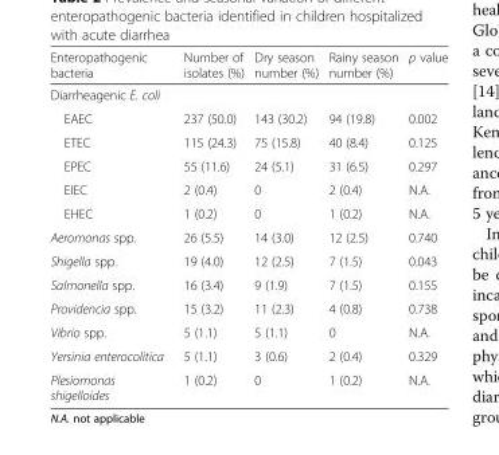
<table><thead><tr><td>Enteropathogenic bacteria</td><td>Number of isolates (%)</td><td>Dry season number (%)</td><td>Rainy season number (%)</td><td>p value</td></tr></thead><tbody><tr><td colspan="5">Diarrheagenic E. coli</td></tr><tr><td>EAEC</td><td>237 (50.0)</td><td>143 (30.2)</td><td>94 (19.8)</td><td>0.002</td></tr><tr><td>ETEC</td><td>115 (24.3)</td><td>75 (15.8)</td><td>40 (8.4)</td><td>0.125</td></tr><tr><td>EPEC</td><td>55 (11.6)</td><td>24 (5.1)</td><td>31 (6.5)</td><td>0.297</td></tr><tr><td>EIEC</td><td>2 (0.4)</td><td>0</td><td>2 (0.4)</td><td>N.A.</td></tr><tr><td>EHEC</td><td>1 (0.2)</td><td>0</td><td>1 (0.2)</td><td>N.A.</td></tr><tr><td>Aeromonas spp.</td><td>26 (5.5)</td><td>14 (3.0)</td><td>12 (2.5)</td><td>0.740</td></tr><tr><td>Shigella spp.</td><td>19 (4.0)</td><td>12 (2.5)</td><td>7 (1.5)</td><td>0.043</td></tr><tr><td>Salmonella spp.</td><td>16 (3.4)</td><td>9 (1.9)</td><td>7 (1.5)</td><td>0.155</td></tr><tr><td>Providencia spp.</td><td>15 (3.2)</td><td>11 (2.3)</td><td>4 (0.8)</td><td>0.738</td></tr><tr><td>Vibrio spp.</td><td>5 (1.1)</td><td>5 (1.1)</td><td>0</td><td>N.A.</td></tr><tr><td>Yersinia enterocolitica</td><td>5 (1.1)</td><td>3 (0.6)</td><td>2 (0.4)</td><td>0.329</td></tr><tr><td>Plesiomonas shigelloides</td><td>1 (0.2)</td><td>0</td><td>1 (0.2)</td><td>N.A.</td></tr></tbody></table>